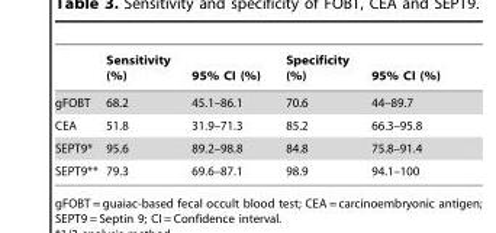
<table><thead><tr><td></td><td>Sensitivity (%)</td><td>95% CI (%)</td><td>Specificity (%)</td><td>95% CI (%)</td></tr></thead><tbody><tr><td>gFOBT</td><td>68.2</td><td>45.1–86.1</td><td>70.6</td><td>44–89.7</td></tr><tr><td>CEA</td><td>51.8</td><td>31.9–71.3</td><td>85.2</td><td>66.3–95.8</td></tr><tr><td>SEPT9*</td><td>95.6</td><td>89.2–98.8</td><td>84.8</td><td>75.8–91.4</td></tr><tr><td>SEPT9**</td><td>79.3</td><td>69.6–87.1</td><td>98.9</td><td>94.1–100</td></tr></tbody></table>